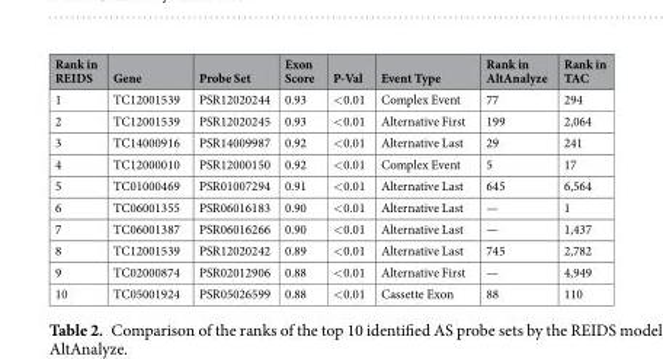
<table><thead><tr><td>Rank in REIDS</td><td>Gene</td><td>Probe Set</td><td>Exon Score</td><td>P-Val</td><td>Event Type</td><td>Rank in AltAnalyze</td><td>Rank in TAC</td></tr></thead><tbody><tr><td>1</td><td>TC12001539</td><td>PSR12020244</td><td>0.93</td><td>&lt;0.01</td><td>Complex Event</td><td>77</td><td>294</td></tr><tr><td>2</td><td>TC12001539</td><td>PSR12020245</td><td>0.93</td><td>&lt;0.01</td><td>Alternative First</td><td>199</td><td>2,064</td></tr><tr><td>3</td><td>TC14000916</td><td>PSR14009987</td><td>0.92</td><td>&lt;0.01</td><td>Alternative Last</td><td>29</td><td>241</td></tr><tr><td>4</td><td>TC12000010</td><td>PSR12000150</td><td>0.92</td><td>&lt;0.01</td><td>Complex Event</td><td>5</td><td>17</td></tr><tr><td>5</td><td>TC01000469</td><td>PSR01007294</td><td>0.91</td><td>&lt;0.01</td><td>Alternative Last</td><td>645</td><td>6,564</td></tr><tr><td>6</td><td>TC06001355</td><td>PSR06016183</td><td>0.90</td><td>&lt;0.01</td><td>Alternative Last</td><td>—</td><td>1</td></tr><tr><td>7</td><td>TC06001387</td><td>PSR06016266</td><td>0.90</td><td>&lt;0.01</td><td>Alternative Last</td><td>—</td><td>1,437</td></tr><tr><td>8</td><td>TC12001539</td><td>PSR12020242</td><td>0.89</td><td>&lt;0.01</td><td>Alternative Last</td><td>745</td><td>2,782</td></tr><tr><td>9</td><td>TC02000874</td><td>PSR02012906</td><td>0.88</td><td>&lt;0.01</td><td>Alternative First</td><td>—</td><td>4,949</td></tr><tr><td>10</td><td>TC05001924</td><td>PSR05026599</td><td>0.88</td><td>&lt;0.01</td><td>Cassette Exon</td><td>88</td><td>110</td></tr></tbody></table>